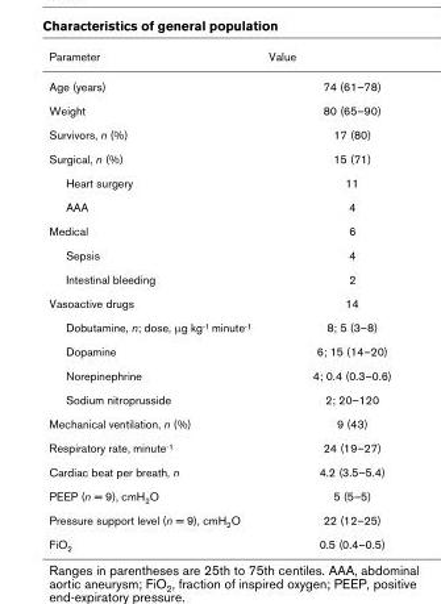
<table><thead><tr><td>Parameter</td><td>Value</td></tr></thead><tbody><tr><td>Age (years)</td><td>74 (61–78)</td></tr><tr><td>Weight</td><td>80 (65–90)</td></tr><tr><td>Survivors, n (%)</td><td>17 (80)</td></tr><tr><td>Surgical, n (%)</td><td>15 (71)</td></tr><tr><td>Heart surgery</td><td>11</td></tr><tr><td>AAA</td><td>4</td></tr><tr><td>Medical</td><td>6</td></tr><tr><td>Sepsis</td><td>4</td></tr><tr><td>Intestinal bleeding</td><td>2</td></tr><tr><td>Vasoactive drugs</td><td>14</td></tr><tr><td>Dobutamine, n; dose, µg kg-1 minute-1</td><td>8; 5 (3–8)</td></tr><tr><td>Dopamine</td><td>6; 15 (14–20)</td></tr><tr><td>Norepinephrine</td><td>4; 0.4 (0.3–0.6)</td></tr><tr><td>Sodium nitroprusside</td><td>2; 20–120</td></tr><tr><td>Mechanical ventilation, n (%)</td><td>9 (43)</td></tr><tr><td>Respiratory rate, minute-1</td><td>24 (19–27)</td></tr><tr><td>Cardiac beat per breath, n</td><td>4.2 (3.5–5.4)</td></tr><tr><td>PEEP (n = 9), cmH2O</td><td>5 (5–5)</td></tr><tr><td>Pressure support level (n = 9), cmH2O</td><td>22 (12–25)</td></tr><tr><td>FiO2</td><td>0.5 (0.4–0.5)</td></tr></tbody></table>